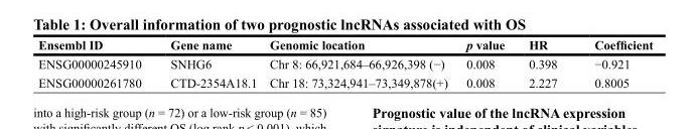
<table><thead><tr><td>Ensembl ID</td><td>Gene name</td><td>Genomic location</td><td>p value</td><td>HR</td><td>Coefficient</td></tr></thead><tbody><tr><td>ENSG00000245910</td><td>SNHG6</td><td>Chr 8: 66,921,684–66,926,398 (−)</td><td>0.008</td><td>0.398</td><td>−0.921</td></tr><tr><td>ENSG00000261780</td><td>CTD-2354A18.1</td><td>Chr 18: 73,324,941–73,349,878(+)</td><td>0.008</td><td>2.227</td><td>0.8005</td></tr></tbody></table>